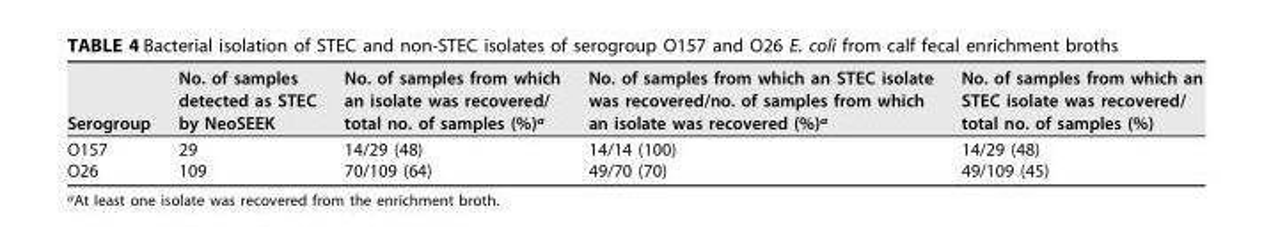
<table><thead><tr><td>Serogroup</td><td>No. of samples detected as STEC by NeoSEEK</td><td>No. of samples from which an isolate was recovered/ total no. of samples (%)<sup>a</sup></td><td>No. of samples from which an STEC isolate was recovered/no. of samples from which an isolate was recovered (%)<sup>a</sup></td><td>No. of samples from which an STEC isolate was recovered/ total no. of samples (%)</td></tr></thead><tbody><tr><td>O157</td><td>29</td><td>14/29 (48)</td><td>14/14 (100)</td><td>14/29 (48)</td></tr><tr><td>O26</td><td>109</td><td>70/109 (64)</td><td>49/70 (70)</td><td>49/109 (45)</td></tr></tbody></table>